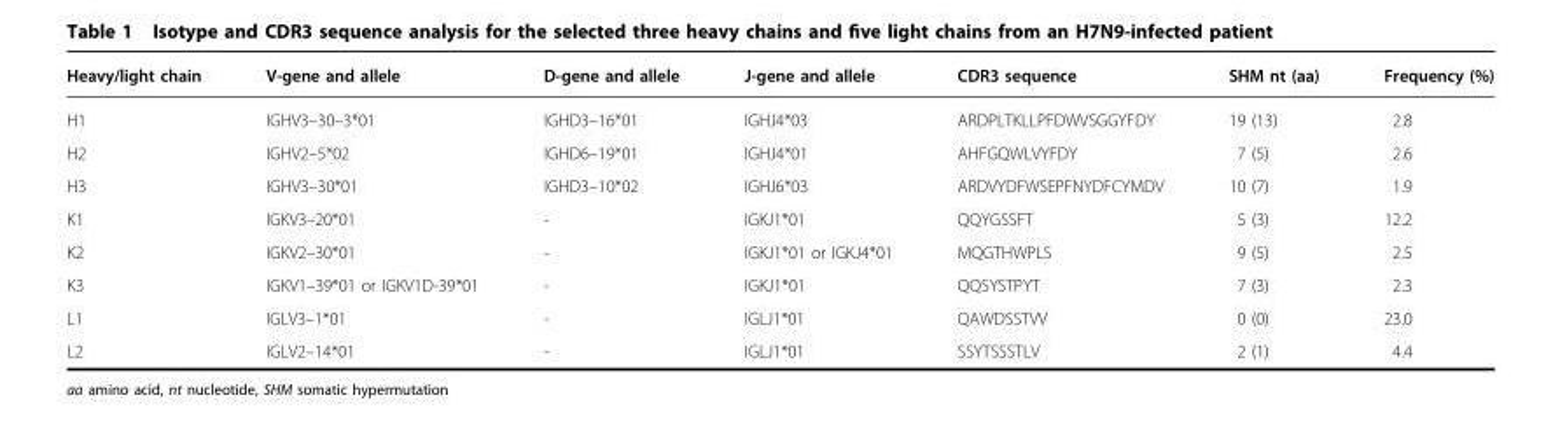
<table><thead><tr><td>Heavy/light chain</td><td>V-gene and allele</td><td>D-gene and allele</td><td>J-gene and allele</td><td>CDR3 sequence</td><td>SHM nt (aa)</td><td>Frequency (%)</td></tr></thead><tbody><tr><td>H1</td><td>IGHV3–30–3*01</td><td>IGHD3–16*01</td><td>IGHJ4*03</td><td>ARDPLTKLLPFDWVSGGYFDY</td><td>19 (13)</td><td>2.8</td></tr><tr><td>H2</td><td>IGHV2–5*02</td><td>IGHD6–19*01</td><td>IGHJ4*01</td><td>AHFGQWLVYFDY</td><td>7 (5)</td><td>2.6</td></tr><tr><td>H3</td><td>IGHV3–30*01</td><td>IGHD3–10*02</td><td>IGHJ6*03</td><td>ARDVYDFWSEPFNYDFCYMDV</td><td>10 (7)</td><td>1.9</td></tr><tr><td>K1</td><td>IGKV3–20*01</td><td>-</td><td>IGKJ1*01</td><td>QQYGSSFT</td><td>5 (3)</td><td>12.2</td></tr><tr><td>K2</td><td>IGKV2–30*01</td><td>-</td><td>IGKJ1*01 or IGKJ4*01</td><td>MQGTHWPLS</td><td>9 (5)</td><td>2.5</td></tr><tr><td>K3</td><td>IGKV1–39*01 or IGKV1D-39*01</td><td>-</td><td>IGKJ1*01</td><td>QQSYSTPYT</td><td>7 (3)</td><td>2.3</td></tr><tr><td>L1</td><td>IGLV3–1*01</td><td>-</td><td>IGLJ1*01</td><td>QAWDSSTVV</td><td>0 (0)</td><td>23.0</td></tr><tr><td>L2</td><td>IGLV2–14*01</td><td>-</td><td>IGLJ1*01</td><td>SSYTSSSTLV</td><td>2 (1)</td><td>4.4</td></tr></tbody></table>